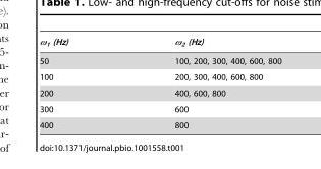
<table><thead><tr><td>ω<sub>1</sub> (Hz)</td><td>ω<sub>2</sub> (Hz)</td></tr></thead><tbody><tr><td>50</td><td>100, 200, 300, 400, 600, 800</td></tr><tr><td>100</td><td>200, 300, 400, 600, 800</td></tr><tr><td>200</td><td>400, 600, 800</td></tr><tr><td>300</td><td>600</td></tr><tr><td>400</td><td>800</td></tr></tbody></table>